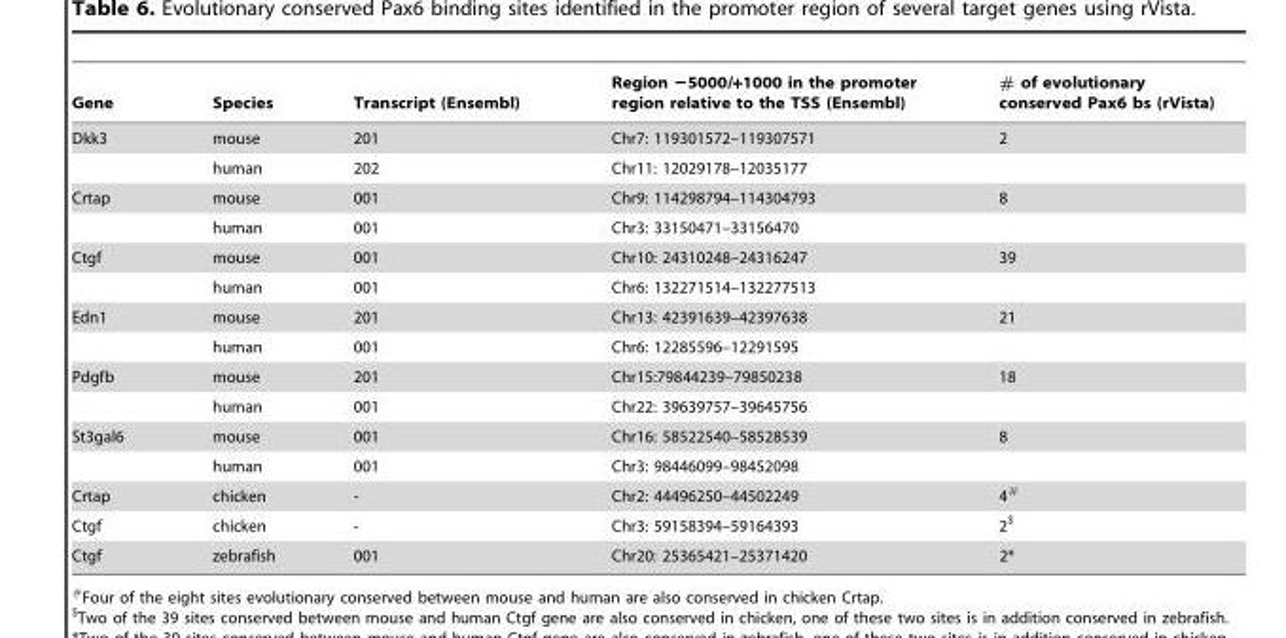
<table><thead><tr><td>Gene</td><td>Species</td><td>Transcript (Ensembl)</td><td>Region −5000/+1000 in the promoter region relative to the TSS (Ensembl)</td><td># of evolutionary conserved Pax6 bs (rVista)</td></tr></thead><tbody><tr><td rowspan="2">Dkk3</td><td>mouse</td><td>201</td><td>Chr7: 119301572–119307571</td><td>2</td></tr><tr><td>human</td><td>202</td><td>Chr11: 12029178–12035177</td><td></td></tr><tr><td rowspan="2">Crtap</td><td>mouse</td><td>001</td><td>Chr9: 114298794–114304793</td><td>8</td></tr><tr><td>human</td><td>001</td><td>Chr3: 33150471–33156470</td><td></td></tr><tr><td rowspan="2">Ctgf</td><td>mouse</td><td>001</td><td>Chr10: 24310248–24316247</td><td>39</td></tr><tr><td>human</td><td>001</td><td>Chr6: 132271514–132277513</td><td></td></tr><tr><td rowspan="2">Edn1</td><td>mouse</td><td>201</td><td>Chr13: 42391639–42397638</td><td>21</td></tr><tr><td>human</td><td>001</td><td>Chr6: 12285596–12291595</td><td></td></tr><tr><td rowspan="2">Pdgfb</td><td>mouse</td><td>201</td><td>Chr15:79844239–79850238</td><td>18</td></tr><tr><td>human</td><td>001</td><td>Chr22: 39639757–39645756</td><td></td></tr><tr><td rowspan="2">St3gal6</td><td>mouse</td><td>001</td><td>Chr16: 58522540–58528539</td><td>8</td></tr><tr><td>human</td><td>001</td><td>Chr3: 98446099–98452098</td><td></td></tr><tr><td>Crtap</td><td>chicken</td><td>-</td><td>Chr2: 44496250–44502249</td><td>4#</td></tr><tr><td>Ctgf</td><td>chicken</td><td>-</td><td>Chr3: 59158394–59164393</td><td>2$</td></tr><tr><td>Ctgf</td><td>zebrafish</td><td>001</td><td>Chr20: 25365421–25371420</td><td>2*</td></tr></tbody></table>